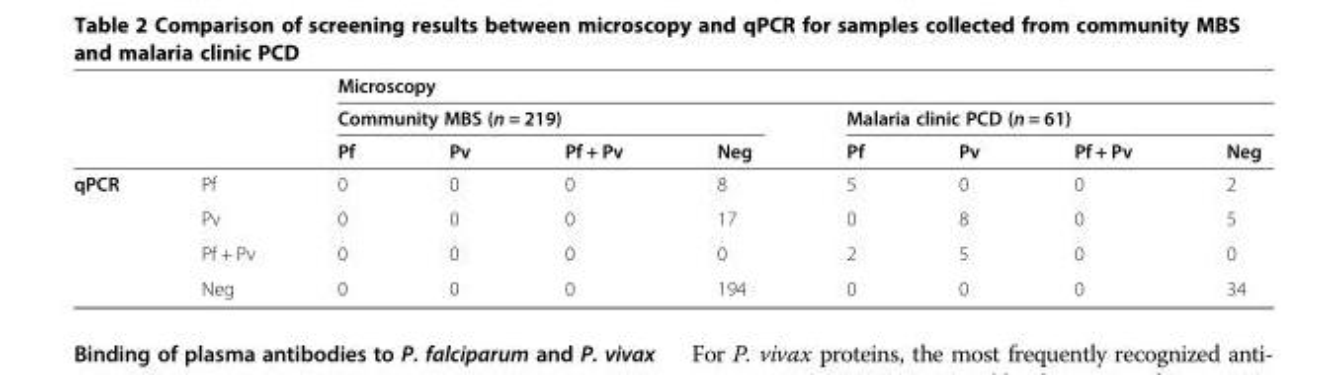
<table><thead><tr><td rowspan="3"></td><td rowspan="3"></td><td colspan="8">Microscopy</td></tr><tr><td colspan="4">Community MBS (n = 219)</td><td colspan="4">Malaria clinic PCD (n = 61)</td></tr><tr><td>Pf</td><td>Pv</td><td>Pf + Pv</td><td>Neg</td><td>Pf</td><td>Pv</td><td>Pf + Pv</td><td>Neg</td></tr></thead><tbody><tr><td rowspan="4">qPCR</td><td>Pf</td><td>0</td><td>0</td><td>0</td><td>8</td><td>5</td><td>0</td><td>0</td><td>2</td></tr><tr><td>Pv</td><td>0</td><td>0</td><td>0</td><td>17</td><td>0</td><td>8</td><td>0</td><td>5</td></tr><tr><td>Pf + Pv</td><td>0</td><td>0</td><td>0</td><td>0</td><td>2</td><td>5</td><td>0</td><td>0</td></tr><tr><td>Neg</td><td>0</td><td>0</td><td>0</td><td>194</td><td>0</td><td>0</td><td>0</td><td>34</td></tr></tbody></table>